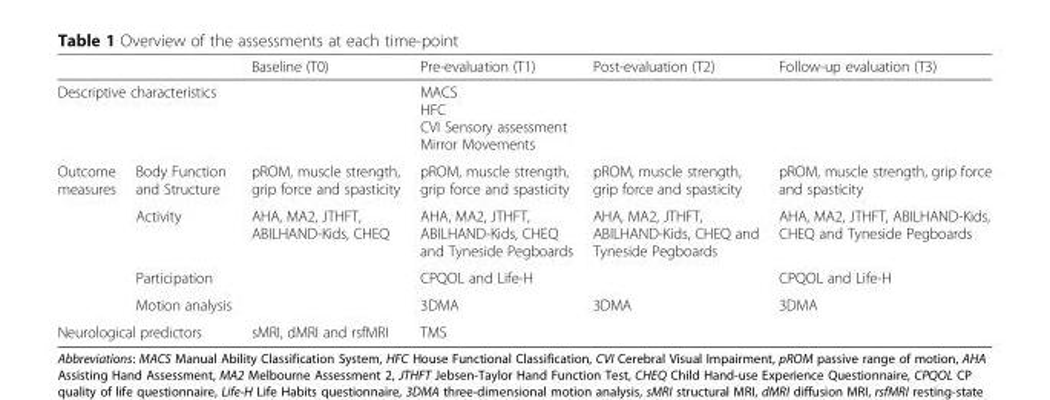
<table><thead><tr><td></td><td></td><td>Baseline (T0)</td><td>Pre-evaluation (T1)</td><td>Post-evaluation (T2)</td><td>Follow-up evaluation (T3)</td></tr></thead><tbody><tr><td colspan="2">Descriptive characteristics</td><td></td><td>MACS HFC CVI Sensory assessment Mirror Movements</td><td></td><td></td></tr><tr><td rowspan="4">Outcome measures</td><td>Body Function and Structure</td><td>pROM, muscle strength, grip force and spasticity</td><td>pROM, muscle strength, grip force and spasticity</td><td>pROM, muscle strength, grip force and spasticity</td><td>pROM, muscle strength, grip force and spasticity</td></tr><tr><td>Activity</td><td>AHA, MA2, JTHFT, ABILHAND-Kids, CHEQ</td><td>AHA, MA2, JTHFT, ABILHAND-Kids, CHEQ and Tyneside Pegboards</td><td>AHA, MA2, JTHFT, ABILHAND-Kids, CHEQ and Tyneside Pegboards</td><td>AHA, MA2, JTHFT, ABILHAND-Kids, CHEQ and Tyneside Pegboards</td></tr><tr><td>Participation</td><td></td><td>CPQOL and Life-H</td><td></td><td>CPQOL and Life-H</td></tr><tr><td>Motion analysis</td><td></td><td>3DMA</td><td>3DMA</td><td>3DMA</td></tr><tr><td colspan="2">Neurological predictors</td><td>sMRI, dMRI and rsfMRI</td><td>TMS</td><td></td><td></td></tr></tbody></table>